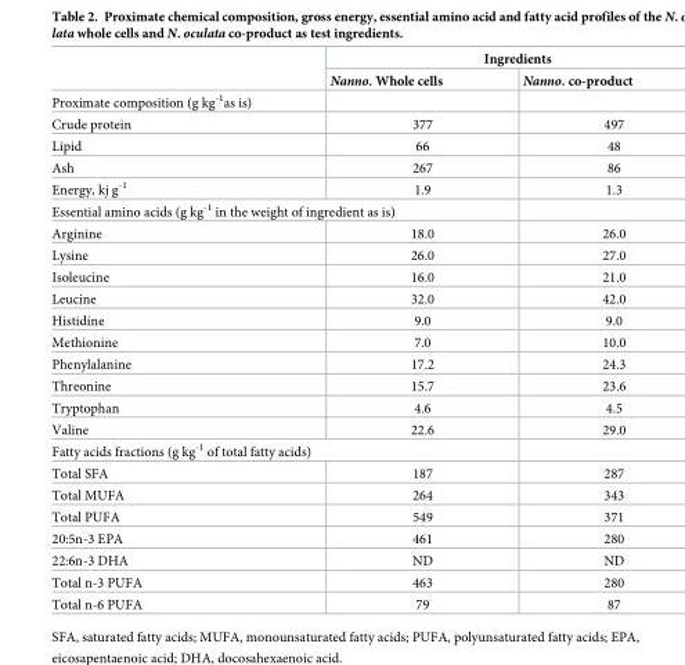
<table><thead><tr><td rowspan="2"></td><td colspan="2">Ingredients</td></tr><tr><td>Nanno. Whole cells</td><td>Nanno. co-product</td></tr></thead><tbody><tr><td colspan="3">Proximate composition (g kg<sup>-1</sup>as is)</td></tr><tr><td>Crude protein</td><td>377</td><td>497</td></tr><tr><td>Lipid</td><td>66</td><td>48</td></tr><tr><td>Ash</td><td>267</td><td>86</td></tr><tr><td>Energy, kj g<sup>-1</sup></td><td>1.9</td><td>1.3</td></tr><tr><td colspan="3">Essential amino acids (g kg<sup>-1</sup> in the weight of ingredient as is)</td></tr><tr><td>Arginine</td><td>18.0</td><td>26.0</td></tr><tr><td>Lysine</td><td>26.0</td><td>27.0</td></tr><tr><td>Isoleucine</td><td>16.0</td><td>21.0</td></tr><tr><td>Leucine</td><td>32.0</td><td>42.0</td></tr><tr><td>Histidine</td><td>9.0</td><td>9.0</td></tr><tr><td>Methionine</td><td>7.0</td><td>10.0</td></tr><tr><td>Phenylalanine</td><td>17.2</td><td>24.3</td></tr><tr><td>Threonine</td><td>15.7</td><td>23.6</td></tr><tr><td>Tryptophan</td><td>4.6</td><td>4.5</td></tr><tr><td>Valine</td><td>22.6</td><td>29.0</td></tr><tr><td colspan="3">Fatty acids fractions (g kg<sup>-1</sup> of total fatty acids)</td></tr><tr><td>Total SFA</td><td>187</td><td>287</td></tr><tr><td>Total MUFA</td><td>264</td><td>343</td></tr><tr><td>Total PUFA</td><td>549</td><td>371</td></tr><tr><td>20:5n-3 EPA</td><td>461</td><td>280</td></tr><tr><td>22:6n-3 DHA</td><td>ND</td><td>ND</td></tr><tr><td>Total n-3 PUFA</td><td>463</td><td>280</td></tr><tr><td>Total n-6 PUFA</td><td>79</td><td>87</td></tr></tbody></table>